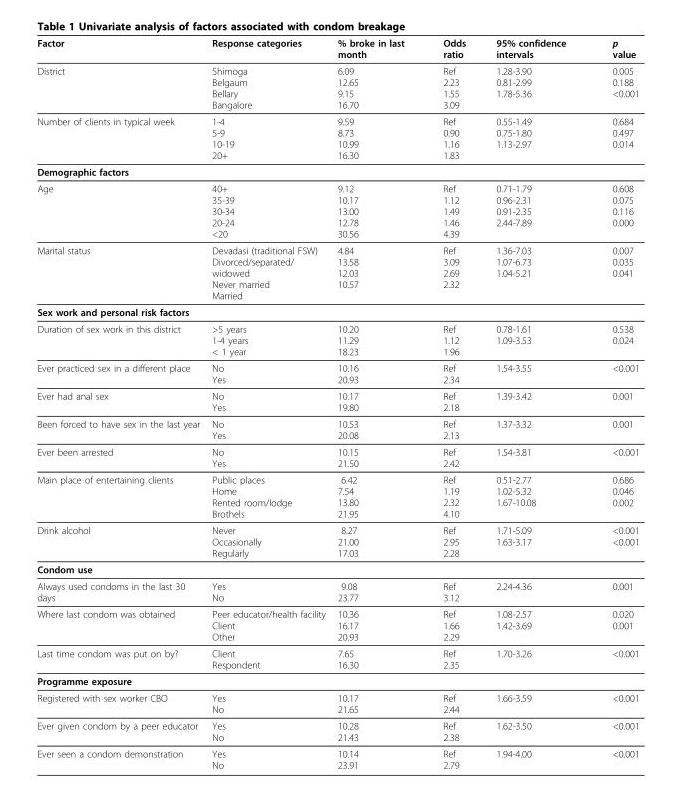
<table><thead><tr><td>Factor</td><td>Response categories</td><td>% broke in last month</td><td>Odds ratio</td><td>95% confidence intervals</td><td>p value</td></tr></thead><tbody><tr><td>District</td><td>Shimoga Belgaum Bellary Bangalore</td><td>6.09 12.65 9.15 16.70</td><td>Ref 2.23 1.55 3.09</td><td>1.28-3.90 0.81-2.99 1.78-5.36</td><td>0.005 0.188 &lt;0.001</td></tr><tr><td>Number of clients in typical week</td><td>1-4 5-9 10-19 20+</td><td>9.59 8.73 10.99 16.30</td><td>Ref 0.90 1.16 1.83</td><td>0.55-1.49 0.75-1.80 1.13-2.97</td><td>0.684 0.497 0.014</td></tr><tr><td colspan="6">Demographic factors</td></tr><tr><td>Age</td><td>40+ 35-39 30-34 20-24 &lt;20</td><td>9.12 10.17 13.00 12.78 30.56</td><td>Ref 1.12 1.49 1.46 4.39</td><td>0.71-1.79 0.96-2.31 0.91-2.35 2.44-7.89</td><td>0.608 0.075 0.116 0.000</td></tr><tr><td>Marital status</td><td>Devadasi (traditional FSW) Divorced/separated/ widowed Never married Married</td><td>4.84 13.58 12.03 10.57</td><td>Ref 3.09 2.69 2.32</td><td>1.36-7.03 1.07-6.73 1.04-5.21</td><td>0.007 0.035 0.041</td></tr><tr><td colspan="6">Sex work and personal risk factors</td></tr><tr><td>Duration of sex work in this district</td><td>&gt;5 years 1-4 years &lt; 1 year</td><td>10.20 11.29 18.23</td><td>Ref 1.12 1.96</td><td>0.78-1.61 1.09-3.53</td><td>0.538 0.024</td></tr><tr><td>Ever practiced sex in a different place</td><td>No Yes</td><td>10.16 20.93</td><td>Ref 2.34</td><td>1.54-3.55</td><td>&lt;0.001</td></tr><tr><td>Ever had anal sex</td><td>No Yes</td><td>10.17 19.80</td><td>Ref 2.18</td><td>1.39-3.42</td><td>0.001</td></tr><tr><td>Been forced to have sex in the last year</td><td>No Yes</td><td>10.53 20.08</td><td>Ref 2.13</td><td>1.37-3.32</td><td>0.001</td></tr><tr><td>Ever been arrested</td><td>No Yes</td><td>10.15 21.50</td><td>Ref 2.42</td><td>1.54-3.81</td><td>&lt;0.001</td></tr><tr><td>Main place of entertaining clients</td><td>Public places Home Rented room/lodge Brothels</td><td>6.42 7.54 13.80 21.95</td><td>Ref 1.19 2.32 4.10</td><td>0.51-2.77 1.02-5.32 1.67-10.08</td><td>0.686 0.046 0.002</td></tr><tr><td>Drink alcohol</td><td>Never Occasionally Regularly</td><td>8.27 21.00 17.03</td><td>Ref 2.95 2.28</td><td>1.71-5.09 1.63-3.17</td><td>&lt;0.001 &lt;0.001</td></tr><tr><td colspan="6">Condom use</td></tr><tr><td>Always used condoms in the last 30 days</td><td>Yes No</td><td>9.08 23.77</td><td>Ref 3.12</td><td>2.24-4.36</td><td>0.001</td></tr><tr><td>Where last condom was obtained</td><td>Peer educator/health facility Client Other</td><td>10.36 16.17 20.93</td><td>Ref 1.66 2.29</td><td>1.08-2.57 1.42-3.69</td><td>0.020 0.001</td></tr><tr><td>Last time condom was put on by?</td><td>Client Respondent</td><td>7.65 16.30</td><td>Ref 2.35</td><td>1.70-3.26</td><td>&lt;0.001</td></tr><tr><td colspan="6">Programme exposure</td></tr><tr><td>Registered with sex worker CBO</td><td>Yes No</td><td>10.17 21.65</td><td>Ref 2.44</td><td>1.66-3.59</td><td>&lt;0.001</td></tr><tr><td>Ever given condom by a peer educator</td><td>Yes No</td><td>10.28 21.43</td><td>Ref 2.38</td><td>1.62-3.50</td><td>&lt;0.001</td></tr><tr><td>Ever seen a condom demonstration</td><td>Yes No</td><td>10.14 23.91</td><td>Ref 2.79</td><td>1.94-4.00</td><td>&lt;0.001</td></tr></tbody></table>